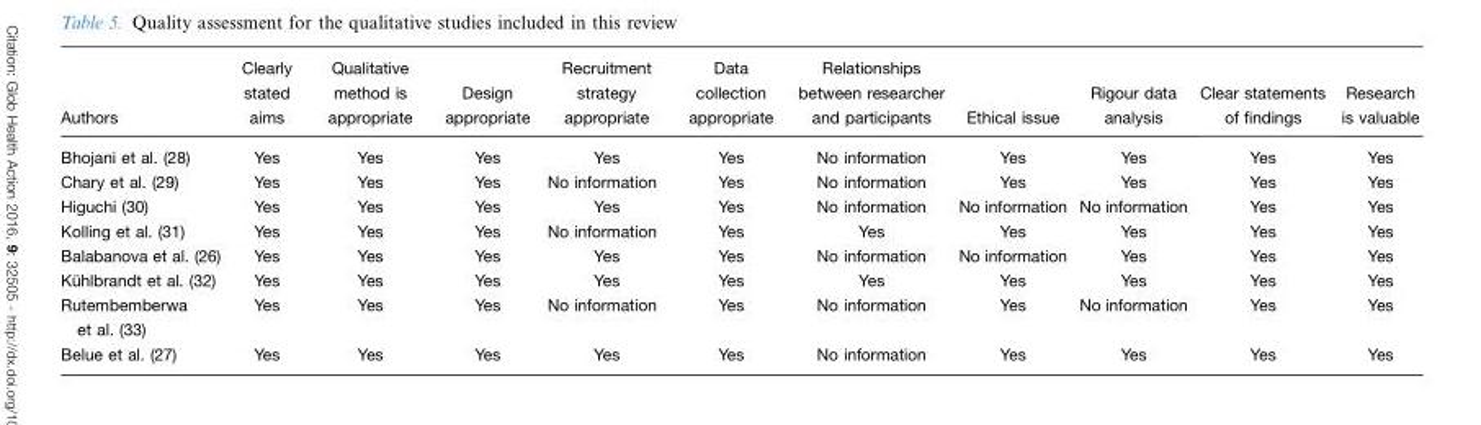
<table><thead><tr><td>Authors</td><td>Clearly stated aims</td><td>Qualitative method is appropriate</td><td>Design appropriate</td><td>Recruitment strategy appropriate</td><td>Data collection appropriate</td><td>Relationships between researcher and participants</td><td>Ethical issue</td><td>Rigour data analysis</td><td>Clear statements of findings</td><td>Research is valuable</td></tr></thead><tbody><tr><td>Bhojani et al. (28)</td><td>Yes</td><td>Yes</td><td>Yes</td><td>Yes</td><td>Yes</td><td>No information</td><td>Yes</td><td>Yes</td><td>Yes</td><td>Yes</td></tr><tr><td>Chary et al. (29)</td><td>Yes</td><td>Yes</td><td>Yes</td><td>No information</td><td>Yes</td><td>No information</td><td>Yes</td><td>Yes</td><td>Yes</td><td>Yes</td></tr><tr><td>Higuchi (30)</td><td>Yes</td><td>Yes</td><td>Yes</td><td>Yes</td><td>Yes</td><td>No information</td><td>No information</td><td>No information</td><td>Yes</td><td>Yes</td></tr><tr><td>Kolling et al. (31)</td><td>Yes</td><td>Yes</td><td>Yes</td><td>No information</td><td>Yes</td><td>Yes</td><td>Yes</td><td>Yes</td><td>Yes</td><td>Yes</td></tr><tr><td>Balabanova et al. (26)</td><td>Yes</td><td>Yes</td><td>Yes</td><td>Yes</td><td>Yes</td><td>No information</td><td>No information</td><td>Yes</td><td>Yes</td><td>Yes</td></tr><tr><td>Ku¨ hlbrandt et al. (32)</td><td>Yes</td><td>Yes</td><td>Yes</td><td>Yes</td><td>Yes</td><td>Yes</td><td>Yes</td><td>Yes</td><td>Yes</td><td>Yes</td></tr><tr><td>Rutembemberwa et al. (33)</td><td>Yes</td><td>Yes</td><td>Yes</td><td>No information</td><td>Yes</td><td>No information</td><td>Yes</td><td>No information</td><td>Yes</td><td>Yes</td></tr><tr><td>Belue et al. (27)</td><td>Yes</td><td>Yes</td><td>Yes</td><td>Yes</td><td>Yes</td><td>No information</td><td>Yes</td><td>Yes</td><td>Yes</td><td>Yes</td></tr></tbody></table>